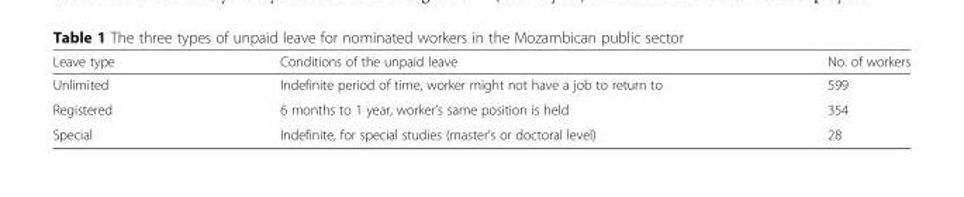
<table><thead><tr><td>Leave type</td><td>Conditions of the unpaid leave</td><td>No. of workers</td></tr></thead><tbody><tr><td>Unlimited</td><td>Indefinite period of time, worker might not have a job to return to</td><td>599</td></tr><tr><td>Registered</td><td>6 months to 1 year, worker’s same position is held</td><td>354</td></tr><tr><td>Special</td><td>Indefinite, for special studies (master’s or doctoral level)</td><td>28</td></tr></tbody></table>